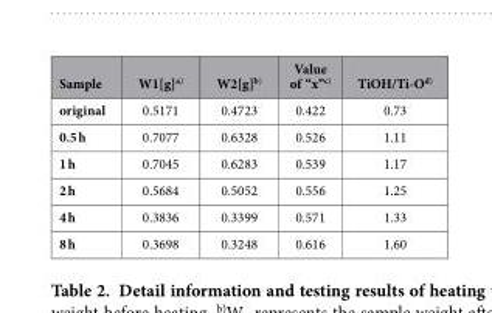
<table><thead><tr><td>Sample</td><td>W1[g]a)</td><td>W2[g]b)</td><td>Value of “x”c)</td><td>TiOH/Ti-Od)</td></tr></thead><tbody><tr><td>original</td><td>0.5171</td><td>0.4723</td><td>0.422</td><td>0.73</td></tr><tr><td>0.5 h</td><td>0.7077</td><td>0.6328</td><td>0.526</td><td>1.11</td></tr><tr><td>1 h</td><td>0.7045</td><td>0.6283</td><td>0.539</td><td>1.17</td></tr><tr><td>2 h</td><td>0.5684</td><td>0.5052</td><td>0.556</td><td>1.25</td></tr><tr><td>4 h</td><td>0.3836</td><td>0.3399</td><td>0.571</td><td>1.33</td></tr><tr><td>8 h</td><td>0.3698</td><td>0.3248</td><td>0.616</td><td>1.60</td></tr></tbody></table>